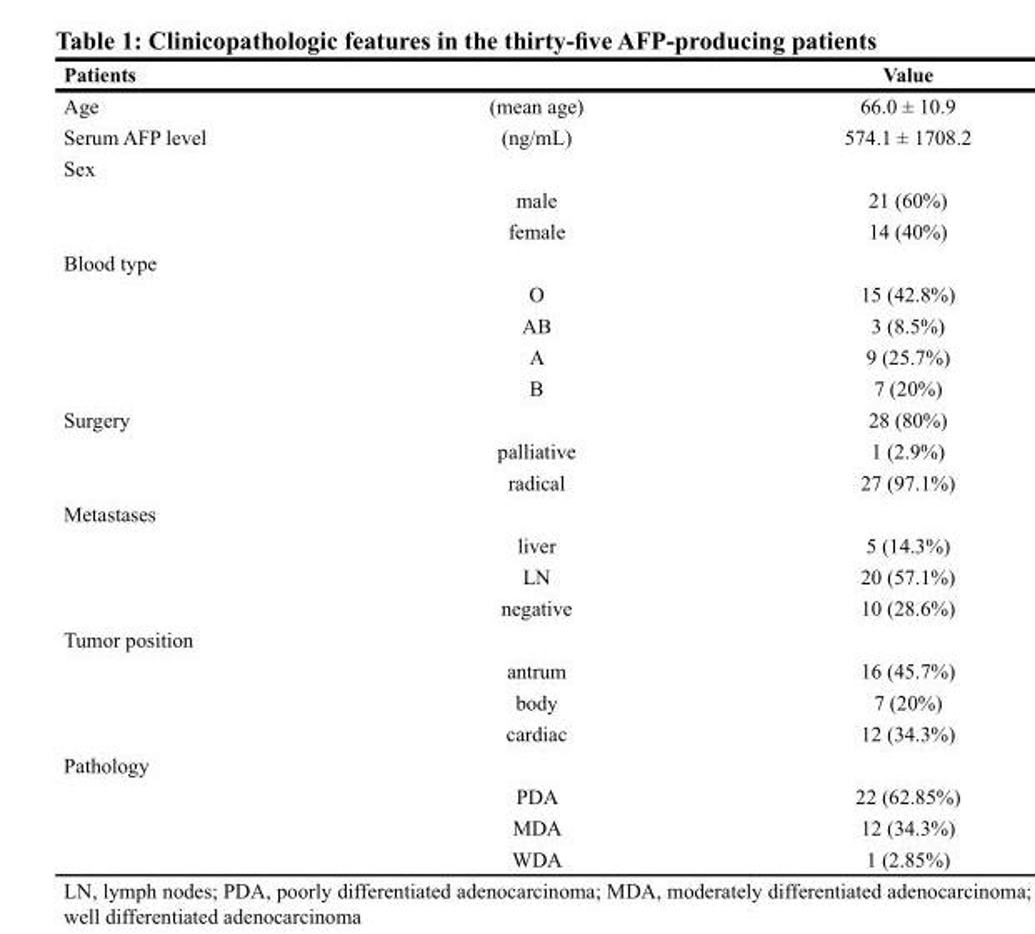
<table><thead><tr><td>Patients</td><td></td><td>Value</td></tr></thead><tbody><tr><td>Age</td><td>(mean age)</td><td>66.0 ± 10.9</td></tr><tr><td>Serum AFP level</td><td>(ng/mL)</td><td>574.1 ± 1708.2</td></tr><tr><td colspan="3">Sex</td></tr><tr><td></td><td>male</td><td>21 (60%)</td></tr><tr><td></td><td>female</td><td>14 (40%)</td></tr><tr><td colspan="3">Blood type</td></tr><tr><td></td><td>O</td><td>15 (42.8%)</td></tr><tr><td></td><td>AB</td><td>3 (8.5%)</td></tr><tr><td></td><td>A</td><td>9 (25.7%)</td></tr><tr><td></td><td>B</td><td>7 (20%)</td></tr><tr><td rowspan="3">Surgery</td><td></td><td>28 (80%)</td></tr><tr><td>palliative</td><td>1 (2.9%)</td></tr><tr><td>radical</td><td>27 (97.1%)</td></tr><tr><td colspan="3">Metastases</td></tr><tr><td></td><td>liver</td><td>5 (14.3%)</td></tr><tr><td></td><td>LN</td><td>20 (57.1%)</td></tr><tr><td></td><td>negative</td><td>10 (28.6%)</td></tr><tr><td colspan="3">Tumor position</td></tr><tr><td></td><td>antrum</td><td>16 (45.7%)</td></tr><tr><td></td><td>body</td><td>7 (20%)</td></tr><tr><td></td><td>cardiac</td><td>12 (34.3%)</td></tr><tr><td colspan="3">Pathology</td></tr><tr><td></td><td>PDA</td><td>22 (62.85%)</td></tr><tr><td></td><td>MDA</td><td>12 (34.3%)</td></tr><tr><td></td><td>WDA</td><td>1 (2.85%)</td></tr></tbody></table>